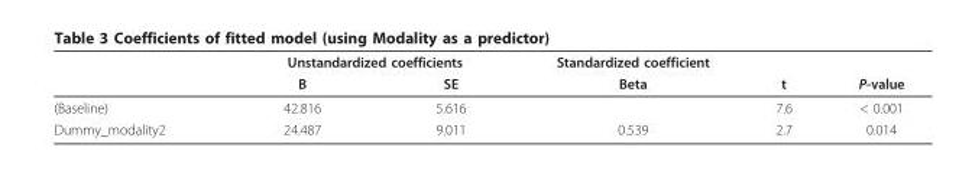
<table><thead><tr><td rowspan="2"></td><td colspan="2">Unstandardized coefficients</td><td rowspan="2">Standardized coefficient Beta</td><td rowspan="2">t</td><td rowspan="2">P-value</td></tr><tr><td>B</td><td>SE</td></tr></thead><tbody><tr><td>(Baseline)</td><td>42.816</td><td>5.616</td><td></td><td>7.6</td><td>&lt; 0.001</td></tr><tr><td>Dummy_modality2</td><td>24.487</td><td>9.011</td><td>0.539</td><td>2.7</td><td>0.014</td></tr></tbody></table>